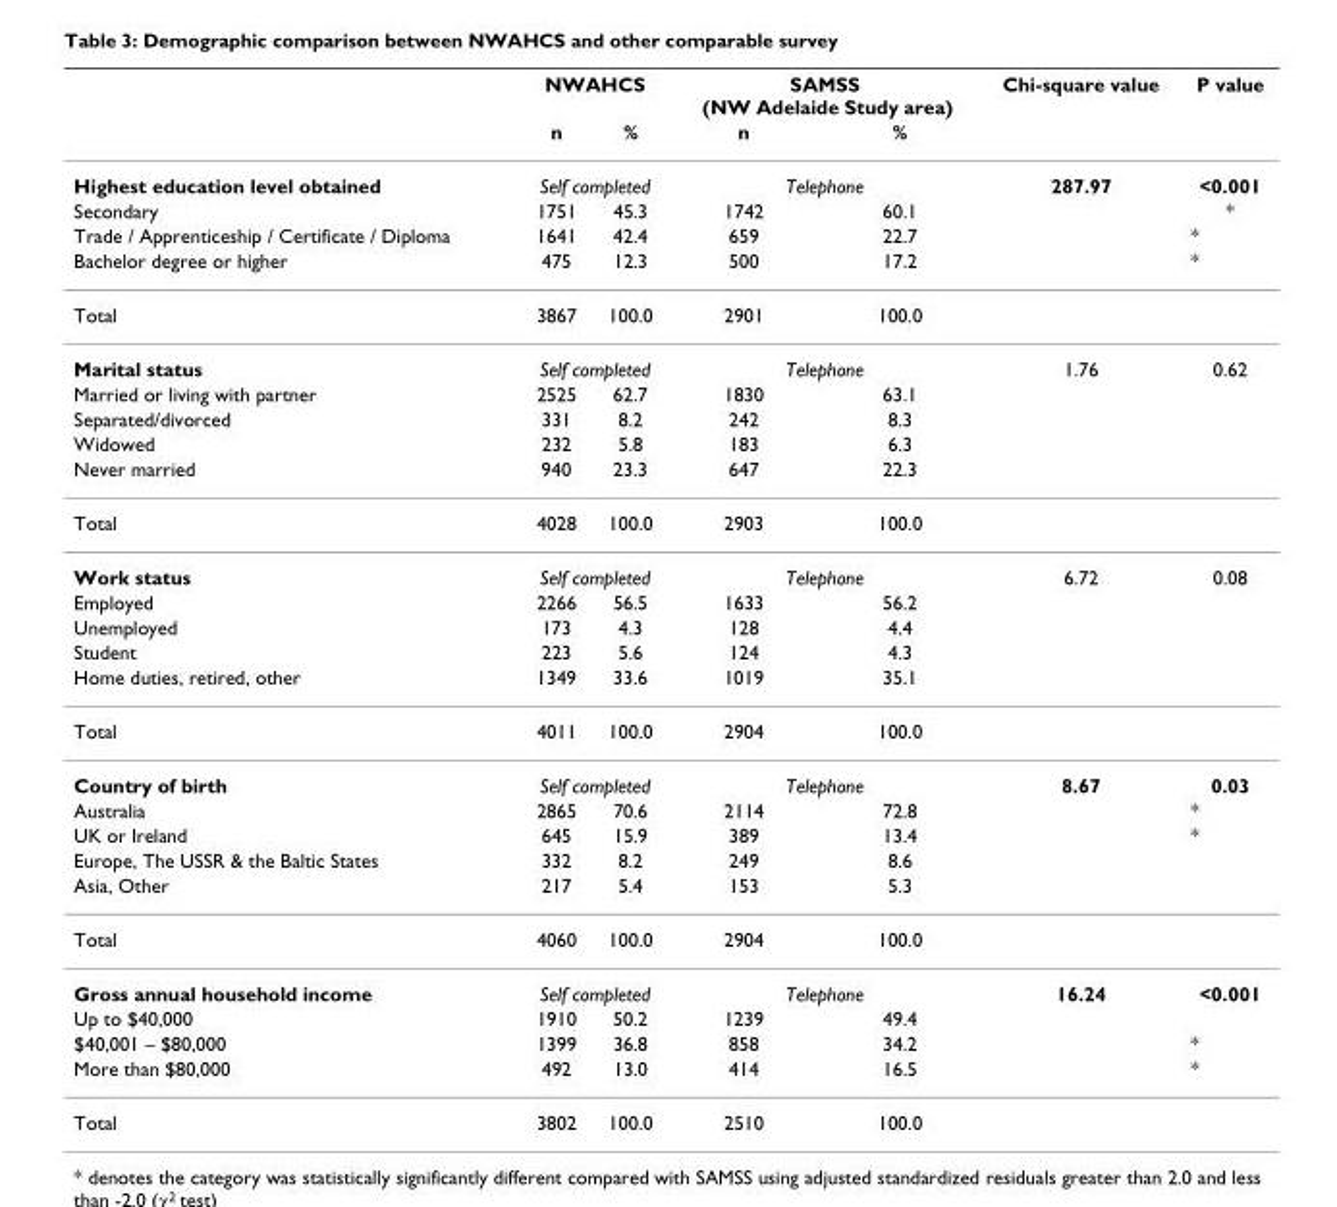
<table><thead><tr><td rowspan="2"></td><td colspan="2">NWAHCS</td><td colspan="2">SAMSS (NW Adelaide Study area)</td><td rowspan="2">Chi-square value</td><td rowspan="2">P value</td></tr><tr><td>n</td><td>%</td><td>n</td><td>%</td></tr></thead><tbody><tr><td>Highest education level obtained</td><td colspan="2">Self completed</td><td colspan="2">Telephone</td><td>287.97</td><td>&lt;0.001</td></tr><tr><td>Secondary</td><td>1751</td><td>45.3</td><td>1742</td><td>60.1</td><td></td><td>*</td></tr><tr><td>Trade / Apprenticeship / Certificate / Diploma</td><td>1641</td><td>42.4</td><td>659</td><td>22.7</td><td></td><td>*</td></tr><tr><td>Bachelor degree or higher</td><td>475</td><td>12.3</td><td>500</td><td>17.2</td><td></td><td>*</td></tr><tr><td>Total</td><td>3867</td><td>100.0</td><td>2901</td><td>100.0</td><td></td><td></td></tr><tr><td>Marital status</td><td colspan="2">Self completed</td><td colspan="2">Telephone</td><td>1.76</td><td>0.62</td></tr><tr><td>Married or living with partner</td><td>2525</td><td>62.7</td><td>1830</td><td>63.1</td><td></td><td></td></tr><tr><td>Separated/divorced</td><td>331</td><td>8.2</td><td>242</td><td>8.3</td><td></td><td></td></tr><tr><td>Widowed</td><td>232</td><td>5.8</td><td>183</td><td>6.3</td><td></td><td></td></tr><tr><td>Never married</td><td>940</td><td>23.3</td><td>647</td><td>22.3</td><td></td><td></td></tr><tr><td>Total</td><td>4028</td><td>100.0</td><td>2903</td><td>100.0</td><td></td><td></td></tr><tr><td>Work status</td><td colspan="2">Self completed</td><td colspan="2">Telephone</td><td>6.72</td><td>0.08</td></tr><tr><td>Employed</td><td>2266</td><td>56.5</td><td>1633</td><td>56.2</td><td></td><td></td></tr><tr><td>Unemployed</td><td>173</td><td>4.3</td><td>128</td><td>4.4</td><td></td><td></td></tr><tr><td>Student</td><td>223</td><td>5.6</td><td>124</td><td>4.3</td><td></td><td></td></tr><tr><td>Home duties, retired, other</td><td>1349</td><td>33.6</td><td>1019</td><td>35.1</td><td></td><td></td></tr><tr><td>Total</td><td>4011</td><td>100.0</td><td>2904</td><td>100.0</td><td></td><td></td></tr><tr><td>Country of birth</td><td colspan="2">Self completed</td><td colspan="2">Telephone</td><td>8.67</td><td>0.03</td></tr><tr><td>Australia</td><td>2865</td><td>70.6</td><td>2114</td><td>72.8</td><td></td><td>*</td></tr><tr><td>UK or Ireland</td><td>645</td><td>15.9</td><td>389</td><td>13.4</td><td></td><td>*</td></tr><tr><td>Europe, The USSR &amp; the Baltic States</td><td>332</td><td>8.2</td><td>249</td><td>8.6</td><td></td><td></td></tr><tr><td>Asia, Other</td><td>217</td><td>5.4</td><td>153</td><td>5.3</td><td></td><td></td></tr><tr><td>Total</td><td>4060</td><td>100.0</td><td>2904</td><td>100.0</td><td></td><td></td></tr><tr><td>Gross annual household income</td><td colspan="2">Self completed</td><td colspan="2">Telephone</td><td>16.24</td><td>&lt;0.001</td></tr><tr><td>Up to $40,000</td><td>1910</td><td>50.2</td><td>1239</td><td>49.4</td><td></td><td></td></tr><tr><td>$40,001 – $80,000</td><td>1399</td><td>36.8</td><td>858</td><td>34.2</td><td></td><td>*</td></tr><tr><td>More than $80,000</td><td>492</td><td>13.0</td><td>414</td><td>16.5</td><td></td><td>*</td></tr><tr><td>Total</td><td>3802</td><td>100.0</td><td>2510</td><td>100.0</td><td></td><td></td></tr></tbody></table>